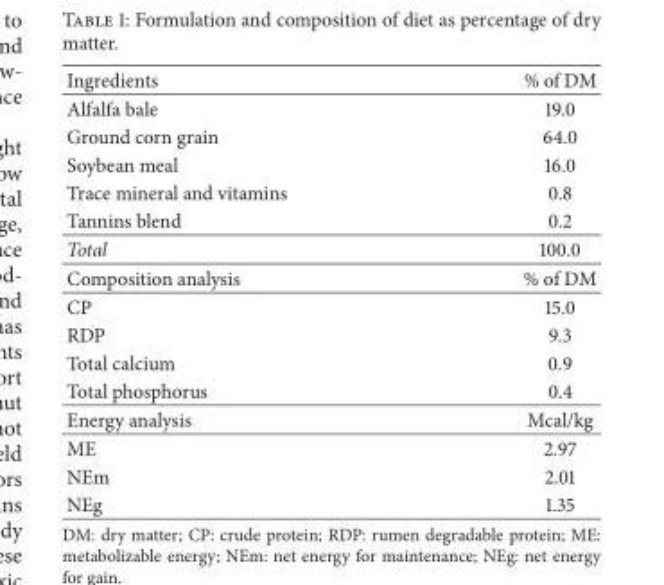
<table><thead><tr><td>Ingredients</td><td>% of DM</td></tr></thead><tbody><tr><td>Alfalfa bale</td><td>19.0</td></tr><tr><td>Ground corn grain</td><td>64.0</td></tr><tr><td>Soybean meal</td><td>16.0</td></tr><tr><td>Trace mineral and vitamins</td><td>0.8</td></tr><tr><td>Tannins blend</td><td>0.2</td></tr><tr><td>Total</td><td>100.0</td></tr><tr><td>Composition analysis</td><td>% of DM</td></tr><tr><td>CP</td><td>15.0</td></tr><tr><td>RDP</td><td>9.3</td></tr><tr><td>Total calcium</td><td>0.9</td></tr><tr><td>Total phosphorus</td><td>0.4</td></tr><tr><td>Energy analysis</td><td>Mcal/kg</td></tr><tr><td>ME</td><td>2.97</td></tr><tr><td>NEm</td><td>2.01</td></tr><tr><td>NEg</td><td>1.35</td></tr></tbody></table>